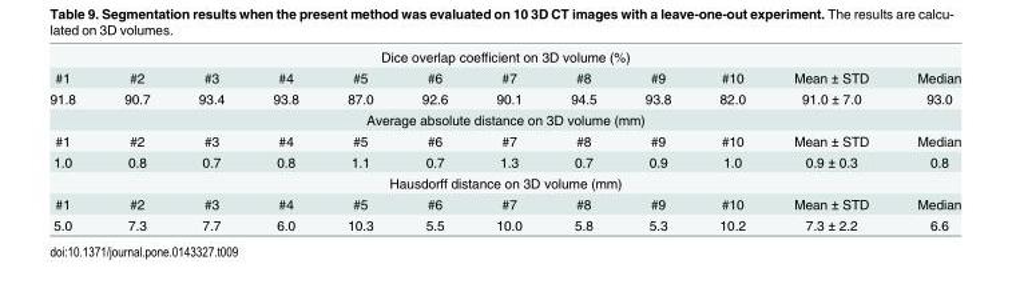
<table><tbody><tr><td colspan="12">Dice overlap coefficient on 3D volume (%)</td></tr><tr><td>#1</td><td>#2</td><td>#3</td><td>#4</td><td>#5</td><td>#6</td><td>#7</td><td>#8</td><td>#9</td><td>#10</td><td>Mean ± STD</td><td>Median</td></tr><tr><td>91.8</td><td>90.7</td><td>93.4</td><td>93.8</td><td>87.0</td><td>92.6</td><td>90.1</td><td>94.5</td><td>93.8</td><td>82.0</td><td>91.0 ± 7.0</td><td>93.0</td></tr><tr><td colspan="12">Average absolute distance on 3D volume (mm)</td></tr><tr><td>#1</td><td>#2</td><td>#3</td><td>#4</td><td>#5</td><td>#6</td><td>#7</td><td>#8</td><td>#9</td><td>#10</td><td>Mean ± STD</td><td>Median</td></tr><tr><td>1.0</td><td>0.8</td><td>0.7</td><td>0.8</td><td>1.1</td><td>0.7</td><td>1.3</td><td>0.7</td><td>0.9</td><td>1.0</td><td>0.9 ± 0.3</td><td>0.8</td></tr><tr><td colspan="12">Hausdorff distance on 3D volume (mm)</td></tr><tr><td>#1</td><td>#2</td><td>#3</td><td>#4</td><td>#5</td><td>#6</td><td>#7</td><td>#8</td><td>#9</td><td>#10</td><td>Mean ± STD</td><td>Median</td></tr><tr><td>5.0</td><td>7.3</td><td>7.7</td><td>6.0</td><td>10.3</td><td>5.5</td><td>10.0</td><td>5.8</td><td>5.3</td><td>10.2</td><td>7.3 ± 2.2</td><td>6.6</td></tr></tbody></table>